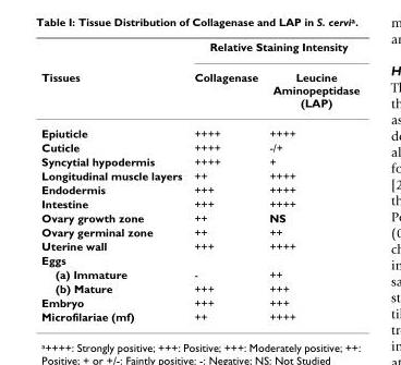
<table><thead><tr><td rowspan="2">Tissues</td><td colspan="2">Relative Staining Intensity</td></tr><tr><td>Collagenase</td><td>Leucine Aminopeptidase (LAP)</td></tr></thead><tbody><tr><td>Epiuticle</td><td>++++</td><td>++++</td></tr><tr><td>Cuticle</td><td>++++</td><td>-/+</td></tr><tr><td>Syncytial hypodermis</td><td>++++</td><td>+</td></tr><tr><td>Longitudinal muscle layers</td><td>++</td><td>++++</td></tr><tr><td>Endodermis</td><td>+++</td><td>++++</td></tr><tr><td>Intestine</td><td>+++</td><td>++++</td></tr><tr><td>Ovary growth zone</td><td>++</td><td>NS</td></tr><tr><td>Ovary germinal zone</td><td>++</td><td>++</td></tr><tr><td>Uterine wall</td><td>+++</td><td>++++</td></tr><tr><td colspan="3">Eggs</td></tr><tr><td>(a) Immature</td><td>-</td><td>++</td></tr><tr><td>(b) Mature</td><td>+++</td><td>+++</td></tr><tr><td>Embryo</td><td>+++</td><td>+++</td></tr><tr><td>Microfilariae (mf)</td><td>++</td><td>++++</td></tr></tbody></table>